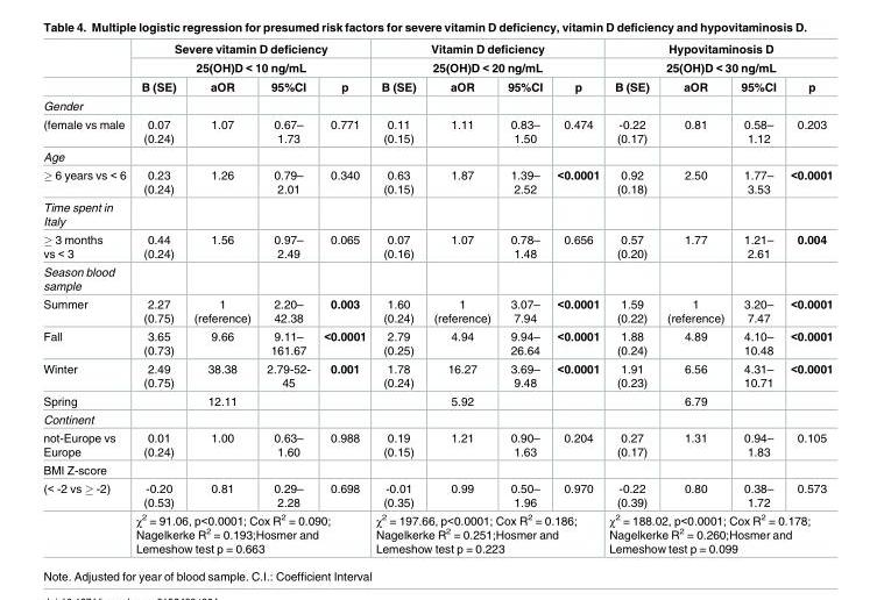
<table><thead><tr><td rowspan="3"></td><td rowspan="2" colspan="4">Severe vitamin D deficiency 25(OH)D &lt; 10 ng/mL</td><td rowspan="2" colspan="4">Vitamin D deficiency 25(OH)D &lt; 20 ng/mL</td><td rowspan="2" colspan="4">Hypovitaminosis D 25(OH)D &lt; 30 ng/mL</td></tr><tr></tr><tr><td>B (SE)</td><td>aOR</td><td>95%CI</td><td>p</td><td>B (SE)</td><td>aOR</td><td>95%CI</td><td>p</td><td>B (SE)</td><td>aOR</td><td>95%CI</td><td>p</td></tr></thead><tbody><tr><td colspan="13">Gender</td></tr><tr><td>(female vs male</td><td>0.07 (0.24)</td><td>1.07</td><td>0.67– 1.73</td><td>0.771</td><td>0.11 (0.15)</td><td>1.11</td><td>0.83– 1.50</td><td>0.474</td><td>-0.22 (0.17)</td><td>0.81</td><td>0.58– 1.12</td><td>0.203</td></tr><tr><td colspan="13">Age</td></tr><tr><td>≥ 6 years vs &lt; 6</td><td>0.23 (0.24)</td><td>1.26</td><td>0.79– 2.01</td><td>0.340</td><td>0.63 (0.15)</td><td>1.87</td><td>1.39– 2.52</td><td>&lt;0.0001</td><td>0.92 (0.18)</td><td>2.50</td><td>1.77– 3.53</td><td>&lt;0.0001</td></tr><tr><td colspan="13">Time spent in Italy</td></tr><tr><td>≥ 3 months vs &lt; 3</td><td>0.44 (0.24)</td><td>1.56</td><td>0.97– 2.49</td><td>0.065</td><td>0.07 (0.16)</td><td>1.07</td><td>0.78– 1.48</td><td>0.656</td><td>0.57 (0.20)</td><td>1.77</td><td>1.21– 2.61</td><td>0.004</td></tr><tr><td colspan="13">Season blood sample</td></tr><tr><td>Summer</td><td>2.27 (0.75)</td><td>1 (reference)</td><td>2.20– 42.38</td><td>0.003</td><td>1.60 (0.24)</td><td>1 (reference)</td><td>3.07– 7.94</td><td>&lt;0.0001</td><td>1.59 (0.22)</td><td>1 (reference)</td><td>3.20– 7.47</td><td>&lt;0.0001</td></tr><tr><td>Fall</td><td>3.65 (0.73)</td><td>9.66</td><td>9.11– 161.67</td><td>&lt;0.0001</td><td>2.79 (0.25)</td><td>4.94</td><td>9.94– 26.64</td><td>&lt;0.0001</td><td>1.88 (0.24)</td><td>4.89</td><td>4.10– 10.48</td><td>&lt;0.0001</td></tr><tr><td>Winter</td><td>2.49 (0.75)</td><td>38.38</td><td>2.79-52- 45</td><td>0.001</td><td>1.78 (0.24)</td><td>16.27</td><td>3.69– 9.48</td><td>&lt;0.0001</td><td>1.91 (0.23)</td><td>6.56</td><td>4.31– 10.71</td><td>&lt;0.0001</td></tr><tr><td>Spring</td><td></td><td>12.11</td><td></td><td></td><td></td><td>5.92</td><td></td><td></td><td></td><td>6.79</td><td></td><td></td></tr><tr><td colspan="13">Continent</td></tr><tr><td>not-Europe vs Europe</td><td>0.01 (0.24)</td><td>1.00</td><td>0.63– 1.60</td><td>0.988</td><td>0.19 (0.15)</td><td>1.21</td><td>0.90– 1.63</td><td>0.204</td><td>0.27 (0.17)</td><td>1.31</td><td>0.94– 1.83</td><td>0.105</td></tr><tr><td colspan="13">BMI Z-score</td></tr><tr><td rowspan="2">(&lt; -2 vs ≥ -2)</td><td>-0.20 (0.53)</td><td>0.81</td><td>0.29– 2.28</td><td>0.698</td><td>-0.01 (0.35)</td><td>0.99</td><td>0.50– 1.96</td><td>0.970</td><td>-0.22 (0.39)</td><td>0.80</td><td>0.38– 1.72</td><td>0.573</td></tr><tr><td colspan="4">χ<sup>2</sup> = 91.06, p&lt;0.0001; Cox R<sup>2</sup> = 0.090; Nagelkerke R<sup>2</sup> = 0.193;Hosmer and Lemeshow test p = 0.663</td><td colspan="4">χ<sup>2</sup> = 197.66, p&lt;0.0001; Cox R<sup>2</sup> = 0.186; Nagelkerke R<sup>2</sup> = 0.251;Hosmer and Lemeshow test p = 0.223</td><td colspan="4">χ<sup>2</sup> = 188.02, p&lt;0.0001; Cox R<sup>2</sup> = 0.178; Nagelkerke R<sup>2</sup> = 0.260;Hosmer and Lemeshow test p = 0.099</td></tr></tbody></table>